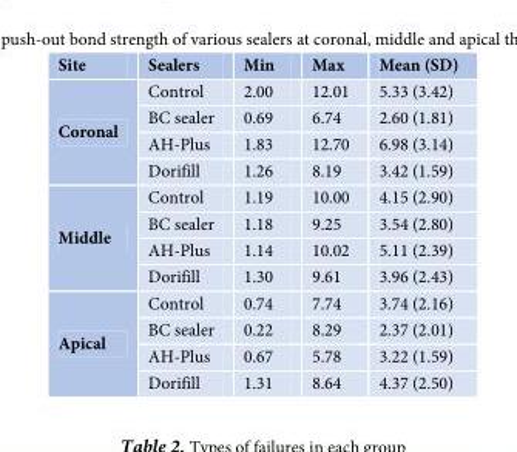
<table><thead><tr><td>Site</td><td>Sealers</td><td>Min</td><td>Max</td><td>Mean (SD)</td></tr></thead><tbody><tr><td rowspan="4">Coronal</td><td>Control</td><td>2.00</td><td>12.01</td><td>5.33 (3.42)</td></tr><tr><td>BC sealer</td><td>0.69</td><td>6.74</td><td>2.60 (1.81)</td></tr><tr><td>AH-Plus</td><td>1.83</td><td>12.70</td><td>6.98 (3.14)</td></tr><tr><td>Dorifill</td><td>1.26</td><td>8.19</td><td>3.42 (1.59)</td></tr><tr><td rowspan="4">Middle</td><td>Control</td><td>1.19</td><td>10.00</td><td>4.15 (2.90)</td></tr><tr><td>BC sealer</td><td>1.18</td><td>9.25</td><td>3.54 (2.80)</td></tr><tr><td>AH-Plus</td><td>1.14</td><td>10.02</td><td>5.11 (2.39)</td></tr><tr><td>Dorifill</td><td>1.30</td><td>9.61</td><td>3.96 (2.43)</td></tr><tr><td rowspan="4">Apical</td><td>Control</td><td>0.74</td><td>7.74</td><td>3.74 (2.16)</td></tr><tr><td>BC sealer</td><td>0.22</td><td>8.29</td><td>2.37 (2.01)</td></tr><tr><td>AH-Plus</td><td>0.67</td><td>5.78</td><td>3.22 (1.59)</td></tr><tr><td>Dorifill</td><td>1.31</td><td>8.64</td><td>4.37 (2.50)</td></tr></tbody></table>